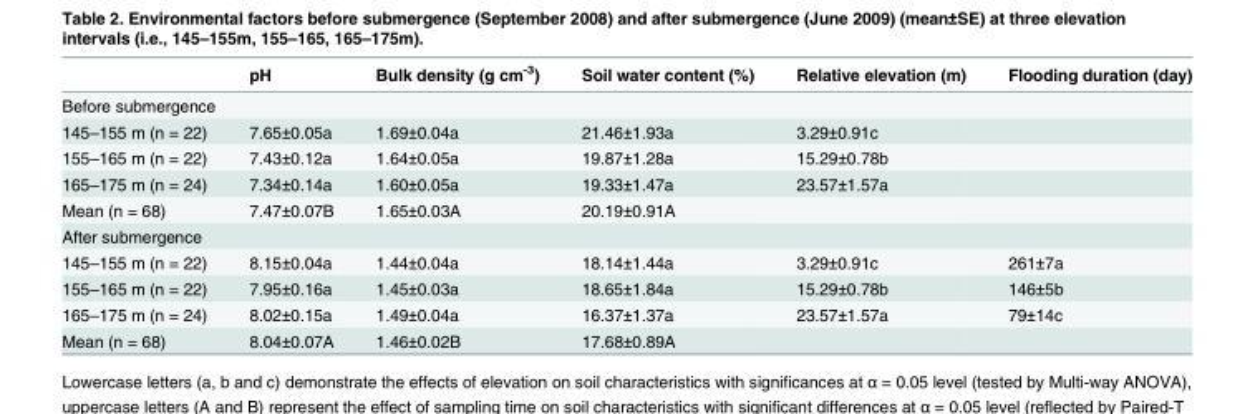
<table><thead><tr><td></td><td>pH</td><td>Bulk density (g cm<sup>-3</sup>)</td><td>Soil water content (%)</td><td>Relative elevation (m)</td><td>Flooding duration (day)</td></tr></thead><tbody><tr><td colspan="6">Before submergence</td></tr><tr><td>145–155 m (n = 22)</td><td>7.65±0.05a</td><td>1.69±0.04a</td><td>21.46±1.93a</td><td>3.29±0.91c</td><td></td></tr><tr><td>155–165 m (n = 22)</td><td>7.43±0.12a</td><td>1.64±0.05a</td><td>19.87±1.28a</td><td>15.29±0.78b</td><td></td></tr><tr><td>165–175 m (n = 24)</td><td>7.34±0.14a</td><td>1.60±0.05a</td><td>19.33±1.47a</td><td>23.57±1.57a</td><td></td></tr><tr><td>Mean (n = 68)</td><td>7.47±0.07B</td><td>1.65±0.03A</td><td>20.19±0.91A</td><td></td><td></td></tr><tr><td colspan="6">After submergence</td></tr><tr><td>145–155 m (n = 22)</td><td>8.15±0.04a</td><td>1.44±0.04a</td><td>18.14±1.44a</td><td>3.29±0.91c</td><td>261±7a</td></tr><tr><td>155–165 m (n = 22)</td><td>7.95±0.16a</td><td>1.45±0.03a</td><td>18.65±1.84a</td><td>15.29±0.78b</td><td>146±5b</td></tr><tr><td>165–175 m (n = 24)</td><td>8.02±0.15a</td><td>1.49±0.04a</td><td>16.37±1.37a</td><td>23.57±1.57a</td><td>79±14c</td></tr><tr><td>Mean (n = 68)</td><td>8.04±0.07A</td><td>1.46±0.02B</td><td>17.68±0.89A</td><td></td><td></td></tr></tbody></table>